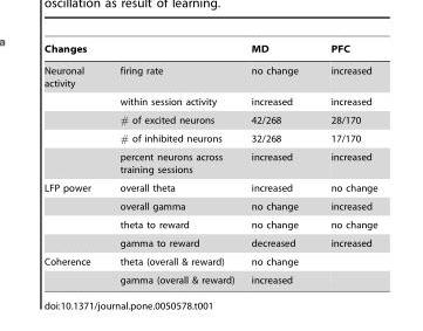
<table><thead><tr><td colspan="2">Changes</td><td rowspan="2">MD no change</td><td rowspan="2">PFC increased</td></tr><tr><td>Neuronal activity</td><td>firing rate</td></tr></thead><tbody><tr><td></td><td>within session activity</td><td>increased</td><td>increased</td></tr><tr><td></td><td># of excited neurons</td><td>42/268</td><td>28/170</td></tr><tr><td></td><td># of inhibited neurons</td><td>32/268</td><td>17/170</td></tr><tr><td></td><td>percent neurons across training sessions</td><td>increased</td><td>increased</td></tr><tr><td rowspan="4">LFP power</td><td>overall theta</td><td>increased</td><td>no change</td></tr><tr><td>overall gamma</td><td>no change</td><td>increased</td></tr><tr><td>theta to reward</td><td>no change</td><td>no change</td></tr><tr><td>gamma to reward</td><td>decreased</td><td>increased</td></tr><tr><td rowspan="2">Coherence</td><td>theta (overall &amp; reward)</td><td>no change</td><td></td></tr><tr><td>gamma (overall &amp; reward)</td><td>increased</td><td></td></tr></tbody></table>